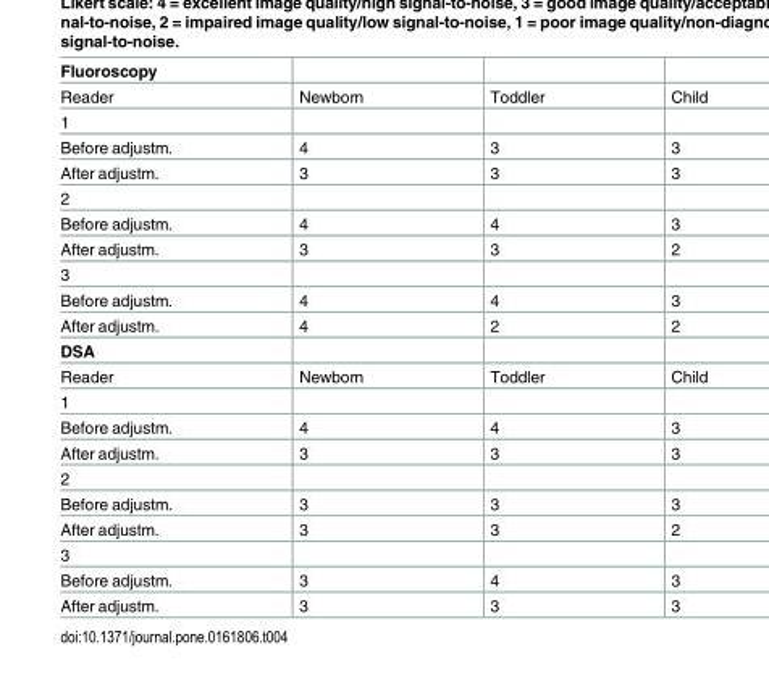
<table><tbody><tr><td colspan="4">Fluoroscopy</td></tr><tr><td>Reader</td><td>Newborn</td><td>Toddler</td><td>Child</td></tr><tr><td colspan="4">1</td></tr><tr><td>Before adjustm.</td><td>4</td><td>3</td><td>3</td></tr><tr><td>After adjustm.</td><td>3</td><td>3</td><td>3</td></tr><tr><td colspan="4">2</td></tr><tr><td>Before adjustm.</td><td>4</td><td>4</td><td>3</td></tr><tr><td>After adjustm.</td><td>3</td><td>3</td><td>2</td></tr><tr><td colspan="4">3</td></tr><tr><td>Before adjustm.</td><td>4</td><td>4</td><td>3</td></tr><tr><td>After adjustm.</td><td>4</td><td>2</td><td>2</td></tr><tr><td colspan="4">DSA</td></tr><tr><td>Reader</td><td>Newborn</td><td>Toddler</td><td>Child</td></tr><tr><td colspan="4">1</td></tr><tr><td>Before adjustm.</td><td>4</td><td>4</td><td>3</td></tr><tr><td>After adjustm.</td><td>3</td><td>3</td><td>3</td></tr><tr><td colspan="4">2</td></tr><tr><td>Before adjustm.</td><td>3</td><td>3</td><td>3</td></tr><tr><td>After adjustm.</td><td>3</td><td>3</td><td>2</td></tr><tr><td colspan="4">3</td></tr><tr><td>Before adjustm.</td><td>3</td><td>4</td><td>3</td></tr><tr><td>After adjustm.</td><td>3</td><td>3</td><td>3</td></tr></tbody></table>